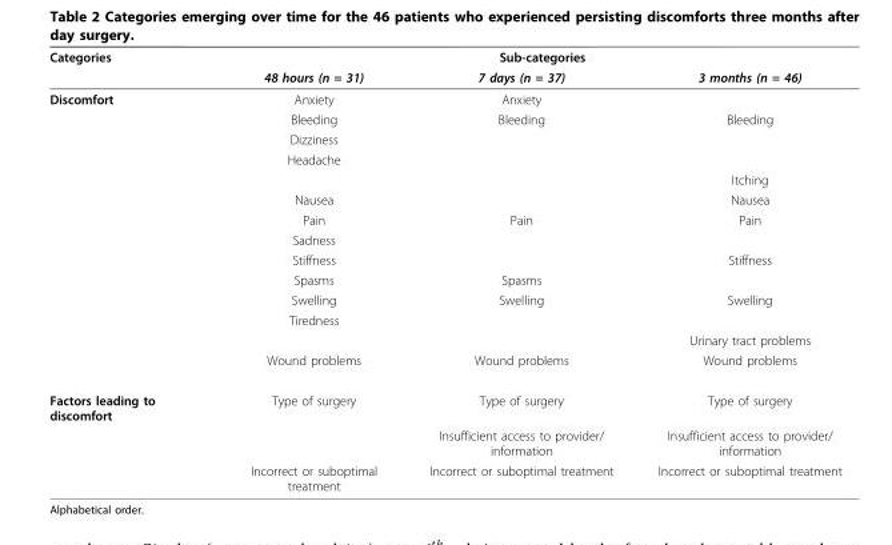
<table><thead><tr><td rowspan="2">Categories</td><td colspan="3">Sub-categories</td></tr><tr><td>48 hours (n = 31)</td><td>7 days (n = 37)</td><td>3 months (n = 46)</td></tr></thead><tbody><tr><td rowspan="14">Discomfort</td><td>Anxiety</td><td>Anxiety</td><td></td></tr><tr><td>Bleeding</td><td>Bleeding</td><td>Bleeding</td></tr><tr><td>Dizziness</td><td></td><td></td></tr><tr><td>Headache</td><td></td><td></td></tr><tr><td></td><td></td><td>Itching</td></tr><tr><td>Nausea</td><td></td><td>Nausea</td></tr><tr><td>Pain</td><td>Pain</td><td>Pain</td></tr><tr><td>Sadness</td><td></td><td></td></tr><tr><td>Stiffness</td><td></td><td>Stiffness</td></tr><tr><td>Spasms</td><td>Spasms</td><td></td></tr><tr><td>Swelling</td><td>Swelling</td><td>Swelling</td></tr><tr><td>Tiredness</td><td></td><td></td></tr><tr><td></td><td></td><td>Urinary tract problems</td></tr><tr><td>Wound problems</td><td>Wound problems</td><td>Wound problems</td></tr><tr><td rowspan="3">Factors leading to discomfort</td><td>Type of surgery</td><td>Type of surgery</td><td>Type of surgery</td></tr><tr><td></td><td>Insufficient access to provider/ information</td><td>Insufficient access to provider/ information</td></tr><tr><td>Incorrect or suboptimal treatment</td><td>Incorrect or suboptimal treatment</td><td>Incorrect or suboptimal treatment</td></tr></tbody></table>